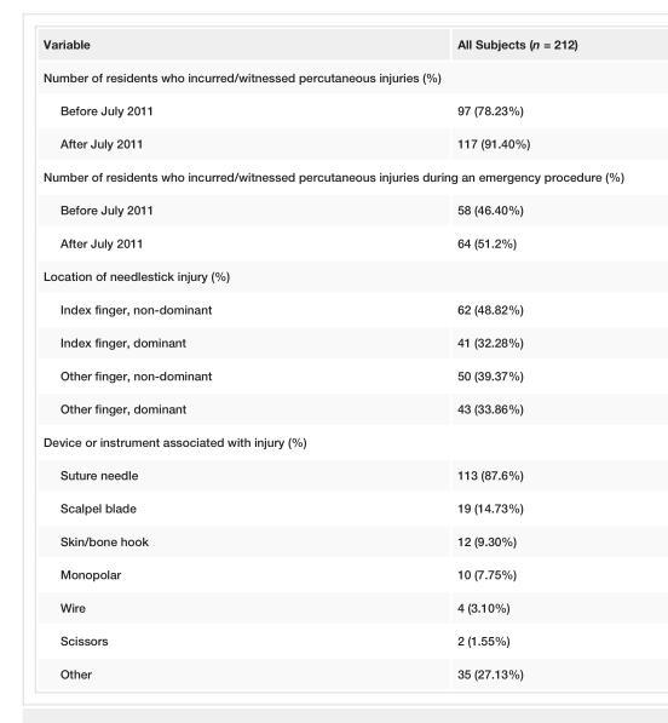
<table><tbody><tr><td>Variable</td><td>All Subjects (n = 212)</td></tr><tr><td colspan="2">Number of residents who incurred/witnessed percutaneous injuries (%)</td></tr><tr><td>Before July 2011</td><td>97 (78.23%)</td></tr><tr><td>After July 2011</td><td>117 (91.40%)</td></tr><tr><td colspan="2">Number of residents who incurred/witnessed percutaneous injuries during an emergency procedure (%)</td></tr><tr><td>Before July 2011</td><td>58 (46.40%)</td></tr><tr><td>After July 2011</td><td>64 (51.2%)</td></tr><tr><td colspan="2">Location of needlestick injury (%)</td></tr><tr><td>Index finger, non-dominant</td><td>62 (48.82%)</td></tr><tr><td>Index finger, dominant</td><td>41 (32.28%)</td></tr><tr><td>Other finger, non-dominant</td><td>50 (39.37%)</td></tr><tr><td>Other finger, dominant</td><td>43 (33.86%)</td></tr><tr><td colspan="2">Device or instrument associated with injury (%)</td></tr><tr><td>Suture needle</td><td>113 (87.6%)</td></tr><tr><td>Scalpel blade</td><td>19 (14.73%)</td></tr><tr><td>Skin/bone hook</td><td>12 (9.30%)</td></tr><tr><td>Monopolar</td><td>10 (7.75%)</td></tr><tr><td>Wire</td><td>4 (3.10%)</td></tr><tr><td>Scissors</td><td>2 (1.55%)</td></tr><tr><td>Other</td><td>35 (27.13%)</td></tr></tbody></table>